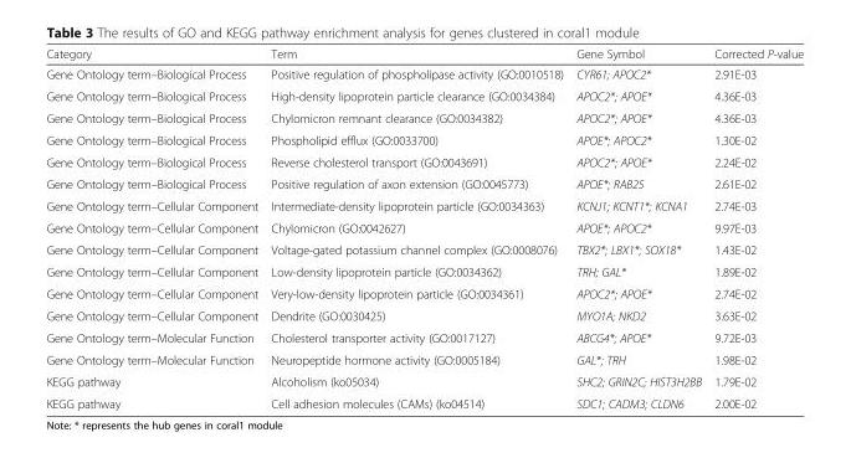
<table><thead><tr><td>Category</td><td>Term</td><td>Gene Symbol</td><td>Corrected P-value</td></tr></thead><tbody><tr><td>Gene Ontology term–Biological Process</td><td>Positive regulation of phospholipase activity (GO:0010518)</td><td>CYR61; APOC2*</td><td>2.91E-03</td></tr><tr><td>Gene Ontology term–Biological Process</td><td>High-density lipoprotein particle clearance (GO:0034384)</td><td>APOC2*; APOE*</td><td>4.36E-03</td></tr><tr><td>Gene Ontology term–Biological Process</td><td>Chylomicron remnant clearance (GO:0034382)</td><td>APOC2*; APOE*</td><td>4.36E-03</td></tr><tr><td>Gene Ontology term–Biological Process</td><td>Phospholipid efflux (GO:0033700)</td><td>APOE*; APOC2*</td><td>1.30E-02</td></tr><tr><td>Gene Ontology term–Biological Process</td><td>Reverse cholesterol transport (GO:0043691)</td><td>APOC2*; APOE*</td><td>2.24E-02</td></tr><tr><td>Gene Ontology term–Biological Process</td><td>Positive regulation of axon extension (GO:0045773)</td><td>APOE*; RAB25</td><td>2.61E-02</td></tr><tr><td>Gene Ontology term–Cellular Component</td><td>Intermediate-density lipoprotein particle (GO:0034363)</td><td>KCNJ1; KCNT1*; KCNA1</td><td>2.74E-03</td></tr><tr><td>Gene Ontology term–Cellular Component</td><td>Chylomicron (GO:0042627)</td><td>APOE*; APOC2*</td><td>9.97E-03</td></tr><tr><td>Gene Ontology term–Cellular Component</td><td>Voltage-gated potassium channel complex (GO:0008076)</td><td>TBX2*; LBX1*; SOX18*</td><td>1.43E-02</td></tr><tr><td>Gene Ontology term–Cellular Component</td><td>Low-density lipoprotein particle (GO:0034362)</td><td>TRH; GAL*</td><td>1.89E-02</td></tr><tr><td>Gene Ontology term–Cellular Component</td><td>Very-low-density lipoprotein particle (GO:0034361)</td><td>APOC2*; APOE*</td><td>2.74E-02</td></tr><tr><td>Gene Ontology term–Cellular Component</td><td>Dendrite (GO:0030425)</td><td>MYO1A; NKD2</td><td>3.63E-02</td></tr><tr><td>Gene Ontology term–Molecular Function</td><td>Cholesterol transporter activity (GO:0017127)</td><td>ABCG4*; APOE*</td><td>9.72E-03</td></tr><tr><td>Gene Ontology term–Molecular Function</td><td>Neuropeptide hormone activity (GO:0005184)</td><td>GAL*; TRH</td><td>1.98E-02</td></tr><tr><td>KEGG pathway</td><td>Alcoholism (ko05034)</td><td>SHC2; GRIN2C; HIST3H2BB</td><td>1.79E-02</td></tr><tr><td>KEGG pathway</td><td>Cell adhesion molecules (CAMs) (ko04514)</td><td>SDC1; CADM3; CLDN6</td><td>2.00E-02</td></tr></tbody></table>